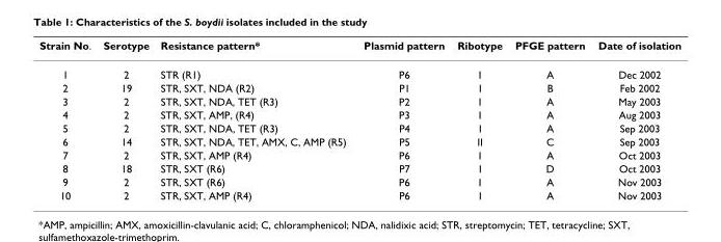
<table><thead><tr><td>Strain No.</td><td>Serotype</td><td>Resistance pattern*</td><td>Plasmid pattern</td><td>Ribotype</td><td>PFGE pattern</td><td>Date of isolation</td></tr></thead><tbody><tr><td>1</td><td>2</td><td>STR (R1)</td><td>P6</td><td>I</td><td>A</td><td>Dec 2002</td></tr><tr><td>2</td><td>19</td><td>STR, SXT, NDA (R2)</td><td>P1</td><td>I</td><td>B</td><td>Feb 2002</td></tr><tr><td>3</td><td>2</td><td>STR, SXT, NDA, TET (R3)</td><td>P2</td><td>I</td><td>A</td><td>May 2003</td></tr><tr><td>4</td><td>2</td><td>STR, SXT, AMP, (R4)</td><td>P3</td><td>I</td><td>A</td><td>Aug 2003</td></tr><tr><td>5</td><td>2</td><td>STR, SXT, NDA, TET (R3)</td><td>P4</td><td>I</td><td>A</td><td>Sep 2003</td></tr><tr><td>6</td><td>14</td><td>STR, SXT, NDA, TET, AMX, C, AMP (R5)</td><td>P5</td><td>II</td><td>C</td><td>Sep 2003</td></tr><tr><td>7</td><td>2</td><td>STR, SXT, AMP (R4)</td><td>P6</td><td>I</td><td>A</td><td>Oct 2003</td></tr><tr><td>8</td><td>18</td><td>STR, SXT (R6)</td><td>P7</td><td>I</td><td>D</td><td>Oct 2003</td></tr><tr><td>9</td><td>2</td><td>STR, SXT (R6)</td><td>P6</td><td>I</td><td>A</td><td>Nov 2003</td></tr><tr><td>10</td><td>2</td><td>STR, SXT, AMP (R4)</td><td>P6</td><td>I</td><td>A</td><td>Nov 2003</td></tr></tbody></table>